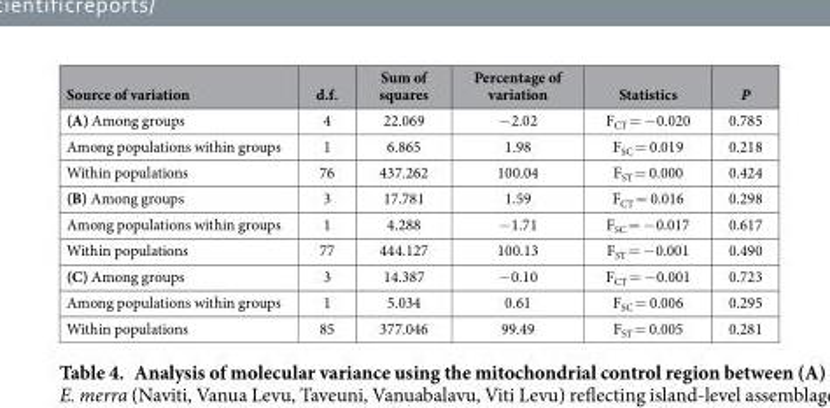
<table><thead><tr><td>Source of variation</td><td>d.f.</td><td>Sum of squares</td><td>Percentage of variation</td><td>Statistics</td><td>P</td></tr></thead><tbody><tr><td>(A) Among groups</td><td>4</td><td>22.069</td><td>− 2.02</td><td>F<sub>CT</sub> = − 0.020</td><td>0.785</td></tr><tr><td>Among populations within groups</td><td>1</td><td>6.865</td><td>1.98</td><td>F<sub>SC</sub> = 0.019</td><td>0.218</td></tr><tr><td>Within populations</td><td>76</td><td>437.262</td><td>100.04</td><td>F<sub>ST</sub> = 0.000</td><td>0.424</td></tr><tr><td>(B) Among groups</td><td>3</td><td>17.781</td><td>1.59</td><td>F<sub>CT</sub> = 0.016</td><td>0.298</td></tr><tr><td>Among populations within groups</td><td>1</td><td>4.288</td><td>− 1.71</td><td>F<sub>SC</sub> = − 0.017</td><td>0.617</td></tr><tr><td>Within populations</td><td>77</td><td>444.127</td><td>100.13</td><td>F<sub>ST</sub> = − 0.001</td><td>0.490</td></tr><tr><td>(C) Among groups</td><td>3</td><td>14.387</td><td>− 0.10</td><td>F<sub>CT</sub> = − 0.001</td><td>0.723</td></tr><tr><td>Among populations within groups</td><td>1</td><td>5.034</td><td>0.61</td><td>F<sub>SC</sub> = 0.006</td><td>0.295</td></tr><tr><td>Within populations</td><td>85</td><td>377.046</td><td>99.49</td><td>F<sub>ST</sub> = 0.005</td><td>0.281</td></tr></tbody></table>